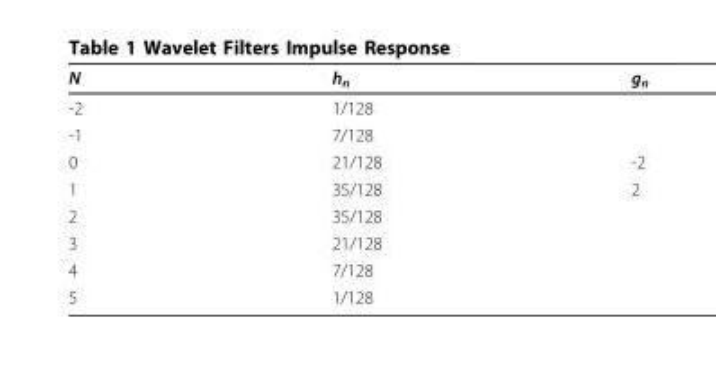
<table><thead><tr><td>N</td><td>h<sub>n</sub></td><td>g<sub>n</sub></td></tr></thead><tbody><tr><td>-2</td><td>1/128</td><td></td></tr><tr><td>-1</td><td>7/128</td><td></td></tr><tr><td>0</td><td>21/128</td><td>-2</td></tr><tr><td>1</td><td>35/128</td><td>2</td></tr><tr><td>2</td><td>35/128</td><td></td></tr><tr><td>3</td><td>21/128</td><td></td></tr><tr><td>4</td><td>7/128</td><td></td></tr><tr><td>5</td><td>1/128</td><td></td></tr></tbody></table>